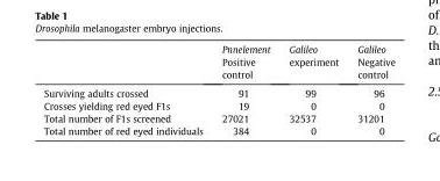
<table><thead><tr><td></td><td>Pnnelement Positive control</td><td>Galileo experiment</td><td>Galileo Negative control</td></tr></thead><tbody><tr><td>Surviving adults crossed</td><td>91</td><td>99</td><td>96</td></tr><tr><td>Crosses yielding red eyed F1s</td><td>19</td><td>0</td><td>0</td></tr><tr><td>Total number of F1s screened</td><td>27021</td><td>32537</td><td>31201</td></tr><tr><td>Total number of red eyed individuals</td><td>384</td><td>0</td><td>0</td></tr></tbody></table>